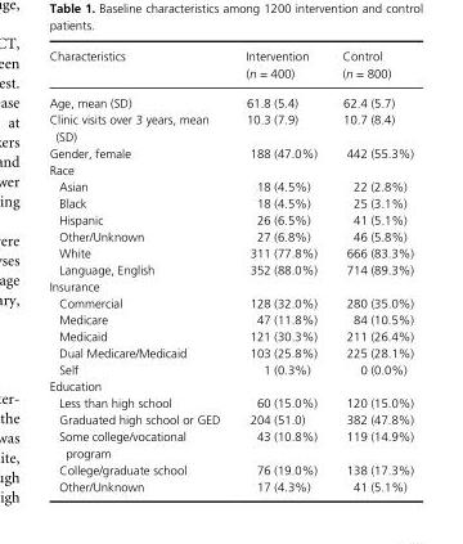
<table><thead><tr><td>Characteristics</td><td>Intervention (n = 400)</td><td>Control (n = 800)</td></tr></thead><tbody><tr><td>Age, mean (SD)</td><td>61.8 (5.4)</td><td>62.4 (5.7)</td></tr><tr><td>Clinic visits over 3 years, mean (SD)</td><td>10.3 (7.9)</td><td>10.7 (8.4)</td></tr><tr><td>Gender, female</td><td>188 (47.0%)</td><td>442 (55.3%)</td></tr><tr><td colspan="3">Race</td></tr><tr><td>Asian</td><td>18 (4.5%)</td><td>22 (2.8%)</td></tr><tr><td>Black</td><td>18 (4.5%)</td><td>25 (3.1%)</td></tr><tr><td>Hispanic</td><td>26 (6.5%)</td><td>41 (5.1%)</td></tr><tr><td>Other/Unknown</td><td>27 (6.8%)</td><td>46 (5.8%)</td></tr><tr><td>White</td><td>311 (77.8%)</td><td>666 (83.3%)</td></tr><tr><td>Language, English</td><td>352 (88.0%)</td><td>714 (89.3%)</td></tr><tr><td colspan="3">Insurance</td></tr><tr><td>Commercial</td><td>128 (32.0%)</td><td>280 (35.0%)</td></tr><tr><td>Medicare</td><td>47 (11.8%)</td><td>84 (10.5%)</td></tr><tr><td>Medicaid</td><td>121 (30.3%)</td><td>211 (26.4%)</td></tr><tr><td>Dual Medicare/Medicaid</td><td>103 (25.8%)</td><td>225 (28.1%)</td></tr><tr><td>Self</td><td>1 (0.3%)</td><td>0 (0.0%)</td></tr><tr><td colspan="3">Education</td></tr><tr><td>Less than high school</td><td>60 (15.0%)</td><td>120 (15.0%)</td></tr><tr><td>Graduated high school or GED</td><td>204 (51.0)</td><td>382 (47.8%)</td></tr><tr><td>Some college/vocational program</td><td>43 (10.8%)</td><td>119 (14.9%)</td></tr><tr><td>College/graduate school</td><td>76 (19.0%)</td><td>138 (17.3%)</td></tr><tr><td>Other/Unknown</td><td>17 (4.3%)</td><td>41 (5.1%)</td></tr></tbody></table>